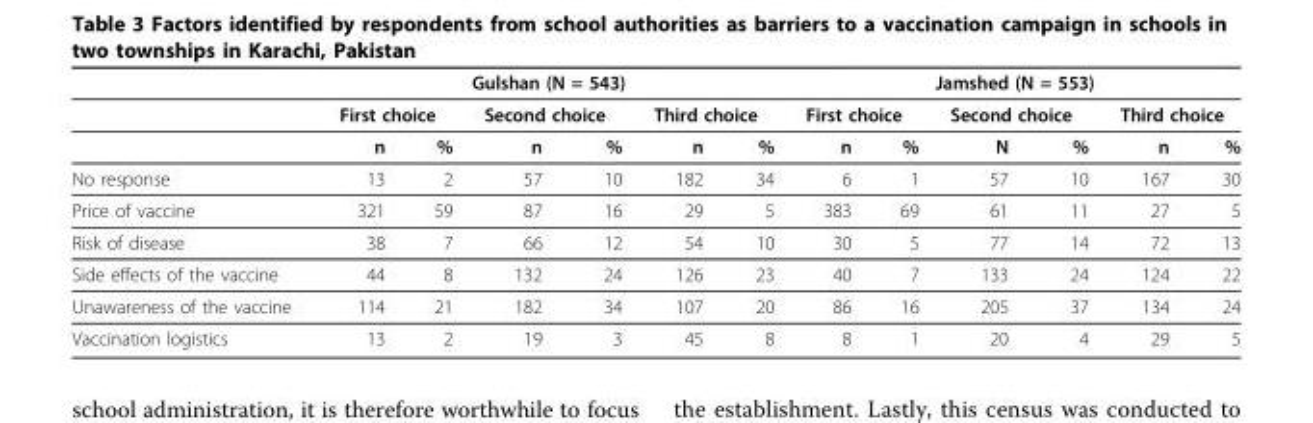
<table><thead><tr><td rowspan="3"></td><td colspan="6">Gulshan (N = 543)</td><td colspan="6">Jamshed (N = 553)</td></tr><tr><td colspan="2">First choice</td><td colspan="2">Second choice</td><td colspan="2">Third choice</td><td colspan="2">First choice</td><td colspan="2">Second choice</td><td colspan="2">Third choice</td></tr><tr><td>n</td><td>%</td><td>n</td><td>%</td><td>n</td><td>%</td><td>n</td><td>%</td><td>N</td><td>%</td><td>n</td><td>%</td></tr></thead><tbody><tr><td>No response</td><td>13</td><td>2</td><td>57</td><td>10</td><td>182</td><td>34</td><td>6</td><td>1</td><td>57</td><td>10</td><td>167</td><td>30</td></tr><tr><td>Price of vaccine</td><td>321</td><td>59</td><td>87</td><td>16</td><td>29</td><td>5</td><td>383</td><td>69</td><td>61</td><td>11</td><td>27</td><td>5</td></tr><tr><td>Risk of disease</td><td>38</td><td>7</td><td>66</td><td>12</td><td>54</td><td>10</td><td>30</td><td>5</td><td>77</td><td>14</td><td>72</td><td>13</td></tr><tr><td>Side effects of the vaccine</td><td>44</td><td>8</td><td>132</td><td>24</td><td>126</td><td>23</td><td>40</td><td>7</td><td>133</td><td>24</td><td>124</td><td>22</td></tr><tr><td>Unawareness of the vaccine</td><td>114</td><td>21</td><td>182</td><td>34</td><td>107</td><td>20</td><td>86</td><td>16</td><td>205</td><td>37</td><td>134</td><td>24</td></tr><tr><td>Vaccination logistics</td><td>13</td><td>2</td><td>19</td><td>3</td><td>45</td><td>8</td><td>8</td><td>1</td><td>20</td><td>4</td><td>29</td><td>5</td></tr></tbody></table>